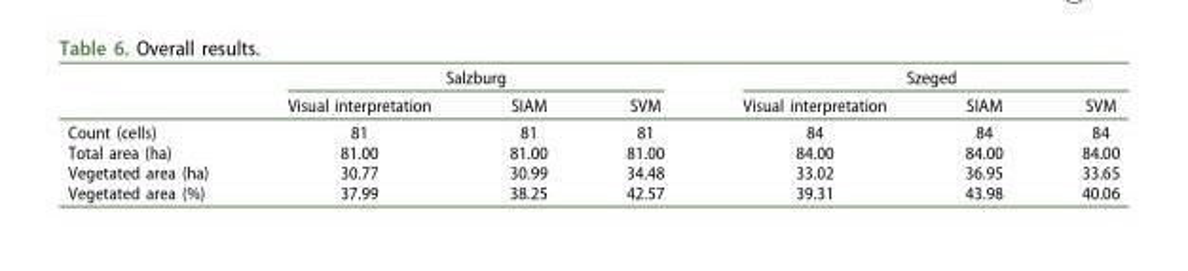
<table><thead><tr><td rowspan="2"></td><td colspan="3">Salzburg</td><td colspan="3">Szeged</td></tr><tr><td>Visual interpretation</td><td>SIAM</td><td>SVM</td><td>Visual interpretation</td><td>SIAM</td><td>SVM</td></tr></thead><tbody><tr><td>Count (cells)</td><td>81</td><td>81</td><td>81</td><td>84</td><td>84</td><td>84</td></tr><tr><td>Total area (ha)</td><td>81.00</td><td>81.00</td><td>81.00</td><td>84.00</td><td>84.00</td><td>84.00</td></tr><tr><td>Vegetated area (ha)</td><td>30.77</td><td>30.99</td><td>34.48</td><td>33.02</td><td>36.95</td><td>33.65</td></tr><tr><td>Vegetated area (%)</td><td>37.99</td><td>38.25</td><td>42.57</td><td>39.31</td><td>43.98</td><td>40.06</td></tr></tbody></table>